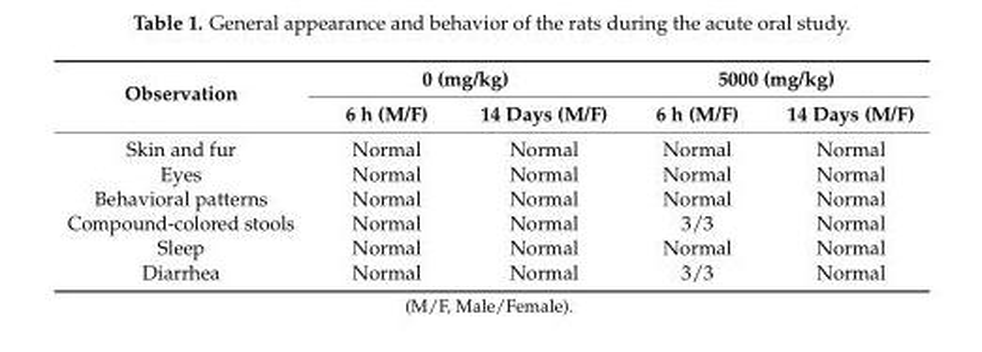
<table><thead><tr><td rowspan="2">Observation</td><td colspan="2">0 (mg/kg)</td><td colspan="2">5000 (mg/kg)</td></tr><tr><td>6 h (M/F)</td><td>14 Days (M/F)</td><td>6 h (M/F)</td><td>14 Days (M/F)</td></tr></thead><tbody><tr><td>Skin and fur</td><td>Normal</td><td>Normal</td><td>Normal</td><td>Normal</td></tr><tr><td>Eyes</td><td>Normal</td><td>Normal</td><td>Normal</td><td>Normal</td></tr><tr><td>Behavioral patterns</td><td>Normal</td><td>Normal</td><td>Normal</td><td>Normal</td></tr><tr><td>Compound-colored stools</td><td>Normal</td><td>Normal</td><td>3/3</td><td>Normal</td></tr><tr><td>Sleep</td><td>Normal</td><td>Normal</td><td>Normal</td><td>Normal</td></tr><tr><td>Diarrhea</td><td>Normal</td><td>Normal</td><td>3/3</td><td>Normal</td></tr></tbody></table>